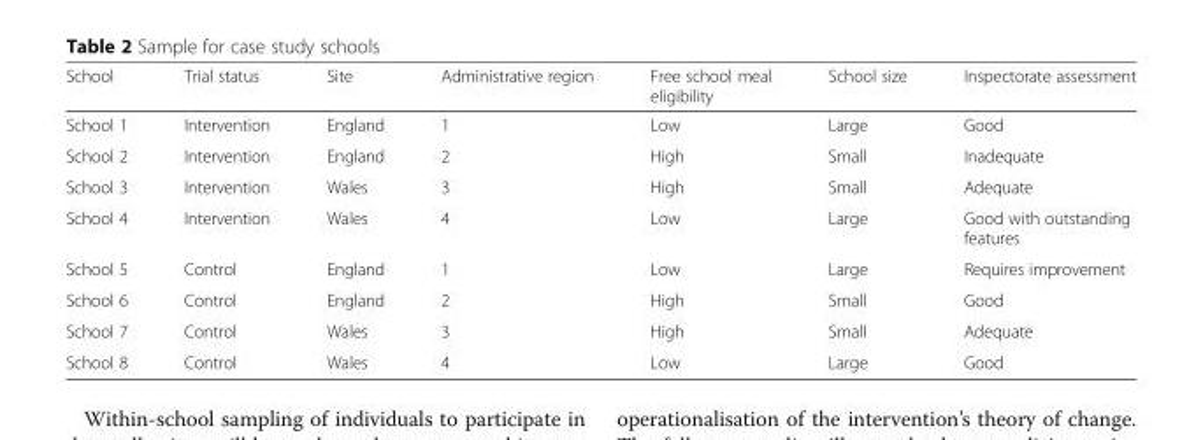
<table><thead><tr><td>School</td><td>Trial status</td><td>Site</td><td>Administrative region</td><td>Free school meal eligibility</td><td>School size</td><td>Inspectorate assessment</td></tr></thead><tbody><tr><td>School 1</td><td>Intervention</td><td>England</td><td>1</td><td>Low</td><td>Large</td><td>Good</td></tr><tr><td>School 2</td><td>Intervention</td><td>England</td><td>2</td><td>High</td><td>Small</td><td>Inadequate</td></tr><tr><td>School 3</td><td>Intervention</td><td>Wales</td><td>3</td><td>High</td><td>Small</td><td>Adequate</td></tr><tr><td>School 4</td><td>Intervention</td><td>Wales</td><td>4</td><td>Low</td><td>Large</td><td>Good with outstanding features</td></tr><tr><td>School 5</td><td>Control</td><td>England</td><td>1</td><td>Low</td><td>Large</td><td>Requires improvement</td></tr><tr><td>School 6</td><td>Control</td><td>England</td><td>2</td><td>High</td><td>Small</td><td>Good</td></tr><tr><td>School 7</td><td>Control</td><td>Wales</td><td>3</td><td>High</td><td>Small</td><td>Adequate</td></tr><tr><td>School 8</td><td>Control</td><td>Wales</td><td>4</td><td>Low</td><td>Large</td><td>Good</td></tr></tbody></table>